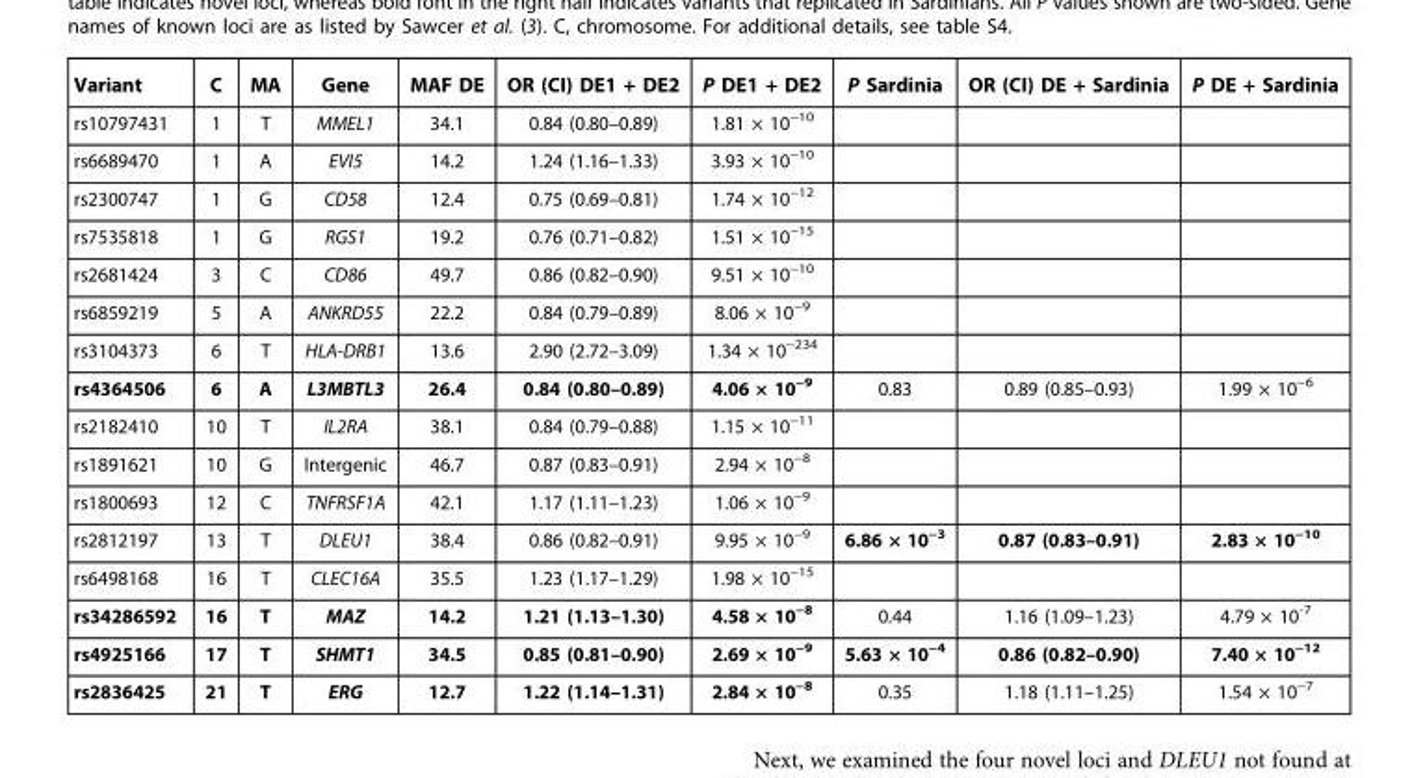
<table><thead><tr><td>Variant</td><td>C</td><td>MA</td><td>Gene</td><td>MAF DE</td><td>OR (CI) DE1 + DE2</td><td>P DE1 + DE2</td><td>P Sardinia</td><td>OR (CI) DE + Sardinia</td><td>P DE + Sardinia</td></tr></thead><tbody><tr><td>rs10797431</td><td>1</td><td>T</td><td>MMEL1</td><td>34.1</td><td>0.84 (0.80–0.89)</td><td>1.81 × 10<sup>−10</sup></td><td></td><td></td><td></td></tr><tr><td>rs6689470</td><td>1</td><td>A</td><td>EVI5</td><td>14.2</td><td>1.24 (1.16–1.33)</td><td>3.93 × 10<sup>−10</sup></td><td></td><td></td><td></td></tr><tr><td>rs2300747</td><td>1</td><td>G</td><td>CD58</td><td>12.4</td><td>0.75 (0.69–0.81)</td><td>1.74 × 10<sup>−12</sup></td><td></td><td></td><td></td></tr><tr><td>rs7535818</td><td>1</td><td>G</td><td>RGS1</td><td>19.2</td><td>0.76 (0.71–0.82)</td><td>1.51 × 10<sup>−15</sup></td><td></td><td></td><td></td></tr><tr><td>rs2681424</td><td>3</td><td>C</td><td>CD86</td><td>49.7</td><td>0.86 (0.82–0.90)</td><td>9.51 × 10<sup>−10</sup></td><td></td><td></td><td></td></tr><tr><td>rs6859219</td><td>5</td><td>A</td><td>ANKRD55</td><td>22.2</td><td>0.84 (0.79–0.89)</td><td>8.06 × 10<sup>−9</sup></td><td></td><td></td><td></td></tr><tr><td>rs3104373</td><td>6</td><td>T</td><td>HLA-DRB1</td><td>13.6</td><td>2.90 (2.72–3.09)</td><td>1.34 × 10<sup>−234</sup></td><td></td><td></td><td></td></tr><tr><td>rs4364506</td><td>6</td><td>A</td><td>L3MBTL3</td><td>26.4</td><td>0.84 (0.80–0.89)</td><td>4.06 × 10<sup>−9</sup></td><td>0.83</td><td>0.89 (0.85–0.93)</td><td>1.99 × 10<sup>−6</sup></td></tr><tr><td>rs2182410</td><td>10</td><td>T</td><td>IL2RA</td><td>38.1</td><td>0.84 (0.79–0.88)</td><td>1.15 × 10<sup>−11</sup></td><td></td><td></td><td></td></tr><tr><td>rs1891621</td><td>10</td><td>G</td><td>Intergenic</td><td>46.7</td><td>0.87 (0.83–0.91)</td><td>2.94 × 10<sup>−8</sup></td><td></td><td></td><td></td></tr><tr><td>rs1800693</td><td>12</td><td>C</td><td>TNFRSF1A</td><td>42.1</td><td>1.17 (1.11–1.23)</td><td>1.06 × 10<sup>−9</sup></td><td></td><td></td><td></td></tr><tr><td>rs2812197</td><td>13</td><td>T</td><td>DLEU1</td><td>38.4</td><td>0.86 (0.82–0.91)</td><td>9.95 × 10<sup>−9</sup></td><td>6.86 × 10<sup>−3</sup></td><td>0.87 (0.83–0.91)</td><td>2.83 × 10<sup>−10</sup></td></tr><tr><td>rs6498168</td><td>16</td><td>T</td><td>CLEC16A</td><td>35.5</td><td>1.23 (1.17–1.29)</td><td>1.98 × 10<sup>−15</sup></td><td></td><td></td><td></td></tr><tr><td>rs34286592</td><td>16</td><td>T</td><td>MAZ</td><td>14.2</td><td>1.21 (1.13–1.30)</td><td>4.58 × 10<sup>−8</sup></td><td>0.44</td><td>1.16 (1.09–1.23)</td><td>4.79 × 10<sup>-7</sup></td></tr><tr><td>rs4925166</td><td>17</td><td>T</td><td>SHMT1</td><td>34.5</td><td>0.85 (0.81–0.90)</td><td>2.69 × 10<sup>−9</sup></td><td>5.63 × 10<sup>−4</sup></td><td>0.86 (0.82–0.90)</td><td>7.40 × 10<sup>−12</sup></td></tr><tr><td>rs2836425</td><td>21</td><td>T</td><td>ERG</td><td>12.7</td><td>1.22 (1.14–1.31)</td><td>2.84 × 10<sup>−8</sup></td><td>0.35</td><td>1.18 (1.11–1.25)</td><td>1.54 × 10<sup>−7</sup></td></tr></tbody></table>